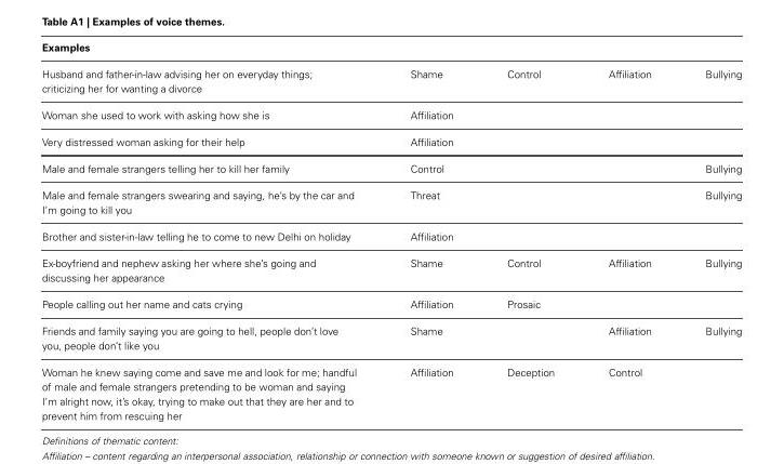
<table><thead><tr><td>Examples</td><td></td><td></td><td></td><td></td></tr></thead><tbody><tr><td>Husband and father-in-law advising her on everyday things; criticizing her for wanting a divorce</td><td>Shame</td><td>Control</td><td>Affiliation</td><td>Bullying</td></tr><tr><td>Woman she used to work with asking how she is</td><td>Affiliation</td><td></td><td></td><td></td></tr><tr><td>Very distressed woman asking for their help</td><td>Affiliation</td><td></td><td></td><td></td></tr><tr><td>Male and female strangers telling her to kill her family</td><td>Control</td><td></td><td></td><td>Bullying</td></tr><tr><td>Male and female strangers swearing and saying, he’s by the car and I’m going to kill you</td><td>Threat</td><td></td><td></td><td>Bullying</td></tr><tr><td>Brother and sister-in-law telling he to come to new Delhi on holiday</td><td>Affiliation</td><td></td><td></td><td></td></tr><tr><td>Ex-boyfriend and nephew asking her where she’s going and discussing her appearance</td><td>Shame</td><td>Control</td><td>Affiliation</td><td>Bullying</td></tr><tr><td>People calling out her name and cats crying</td><td>Affiliation</td><td>Prosaic</td><td></td><td></td></tr><tr><td>Friends and family saying you are going to hell, people don’t love you, people don’t like you</td><td>Shame</td><td></td><td>Affiliation</td><td>Bullying</td></tr><tr><td>Woman he knew saying come and save me and look for me; handful of male and female strangers pretending to be woman and saying I’m alright now, it’s okay, trying to make out that they are her and to prevent him from rescuing her</td><td>Affiliation</td><td>Deception</td><td>Control</td><td></td></tr></tbody></table>